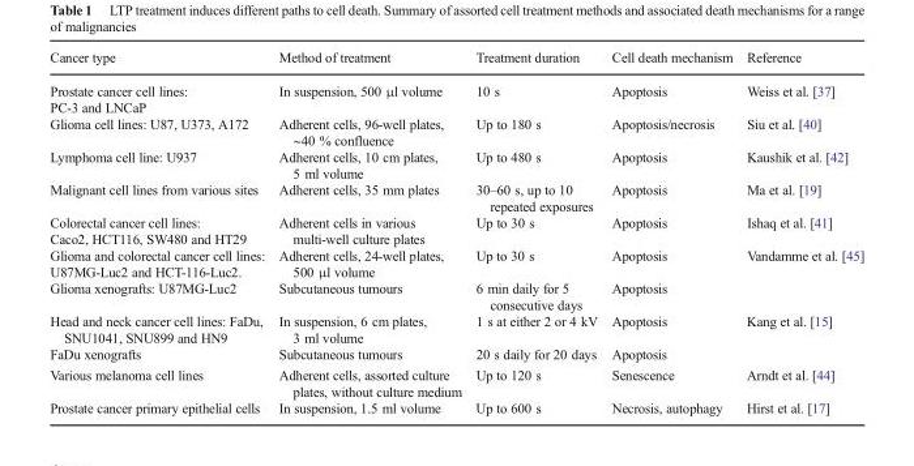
<table><thead><tr><td>Cancer type</td><td>Method of treatment</td><td>Treatment duration</td><td>Cell death mechanism</td><td>Reference</td></tr></thead><tbody><tr><td>Prostate cancer cell lines: PC-3 and LNCaP</td><td>In suspension, 500 μl volume</td><td>10 s</td><td>Apoptosis</td><td>Weiss et al. [37]</td></tr><tr><td>Glioma cell lines: U87, U373, A172</td><td>Adherent cells, 96-well plates, ∼40 % confluence</td><td>Up to 180 s</td><td>Apoptosis/necrosis</td><td>Siu et al. [40]</td></tr><tr><td>Lymphoma cell line: U937</td><td>Adherent cells, 10 cm plates, 5 ml volume</td><td>Up to 480 s</td><td>Apoptosis</td><td>Kaushik et al. [42]</td></tr><tr><td>Malignant cell lines from various sites</td><td>Adherent cells, 35 mm plates</td><td>30–60 s, up to 10 repeated exposures</td><td>Apoptosis</td><td>Ma et al. [19]</td></tr><tr><td>Colorectal cancer cell lines: Caco2, HCT116, SW480 and HT29</td><td>Adherent cells in various multi-well culture plates</td><td>Up to 30 s</td><td>Apoptosis</td><td>Ishaq et al. [41]</td></tr><tr><td>Glioma and colorectal cancer cell lines: U87MG-Luc2 and HCT-116-Luc2.</td><td>Adherent cells, 24-well plates, 500 μl volume</td><td>Up to 30 s</td><td>Apoptosis</td><td rowspan="2">Vandamme et al. [45]</td></tr><tr><td>Glioma xenografts: U87MG-Luc2</td><td>Subcutaneous tumours</td><td>6 min daily for 5 consecutive days</td><td>Apoptosis</td></tr><tr><td>Head and neck cancer cell lines: FaDu, SNU1041, SNU899 and HN9</td><td>In suspension, 6 cm plates, 3 ml volume</td><td>1 s at either 2 or 4 kV</td><td>Apoptosis</td><td rowspan="2">Kang et al. [15]</td></tr><tr><td>FaDu xenografts</td><td>Subcutaneous tumours</td><td>20 s daily for 20 days</td><td>Apoptosis</td></tr><tr><td>Various melanoma cell lines</td><td>Adherent cells, assorted culture plates, without culture medium</td><td>Up to 120 s</td><td>Senescence</td><td>Arndt et al. [44]</td></tr><tr><td>Prostate cancer primary epithelial cells</td><td>In suspension, 1.5 ml volume</td><td>Up to 600 s</td><td>Necrosis, autophagy</td><td>Hirst et al. [17]</td></tr></tbody></table>